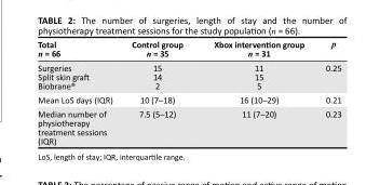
<table><thead><tr><td>Total n = 66</td><td>Control group n = 35</td><td>Xbox intervention group n = 31</td><td>p</td></tr></thead><tbody><tr><td>Surgeries Split skin graft Biobrane<sup>®</sup></td><td>15 14 2</td><td>11 15 5</td><td>0.25</td></tr><tr><td>Mean LoS days (IQR)</td><td>10 (7–18)</td><td>16 (10–29)</td><td>0.21</td></tr><tr><td>Median number of physiotherapy treatment sessions (IQR)</td><td>7.5 (5–12)</td><td>11 (7–20)</td><td>0.23</td></tr></tbody></table>